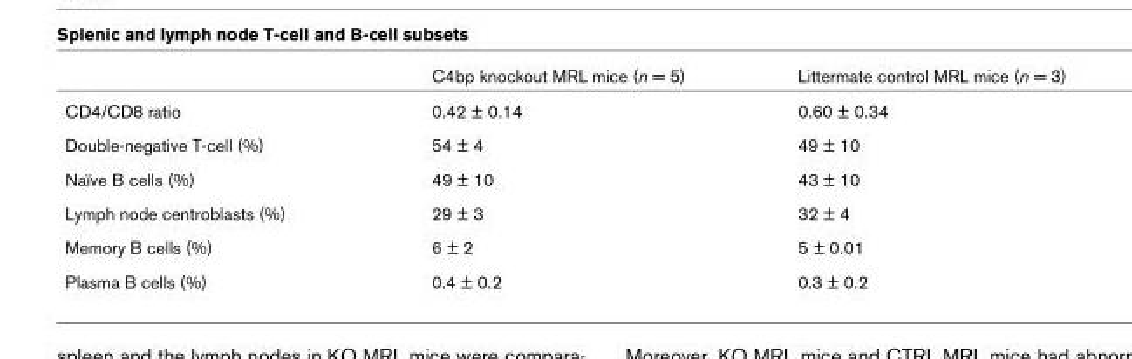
<table><thead><tr><td></td><td>C4bp knockout MRL mice (n = 5)</td><td>Littermate control MRL mice (n = 3)</td></tr></thead><tbody><tr><td>CD4/CD8 ratio</td><td>0.42 ± 0.14</td><td>0.60 ± 0.34</td></tr><tr><td>Double-negative T-cell (%)</td><td>54 ± 4</td><td>49 ± 10</td></tr><tr><td>Naïve B cells (%)</td><td>49 ± 10</td><td>43 ± 10</td></tr><tr><td>Lymph node centroblasts (%)</td><td>29 ± 3</td><td>32 ± 4</td></tr><tr><td>Memory B cells (%)</td><td>6 ± 2</td><td>5 ± 0.01</td></tr><tr><td>Plasma B cells (%)</td><td>0.4 ± 0.2</td><td>0.3 ± 0.2</td></tr></tbody></table>